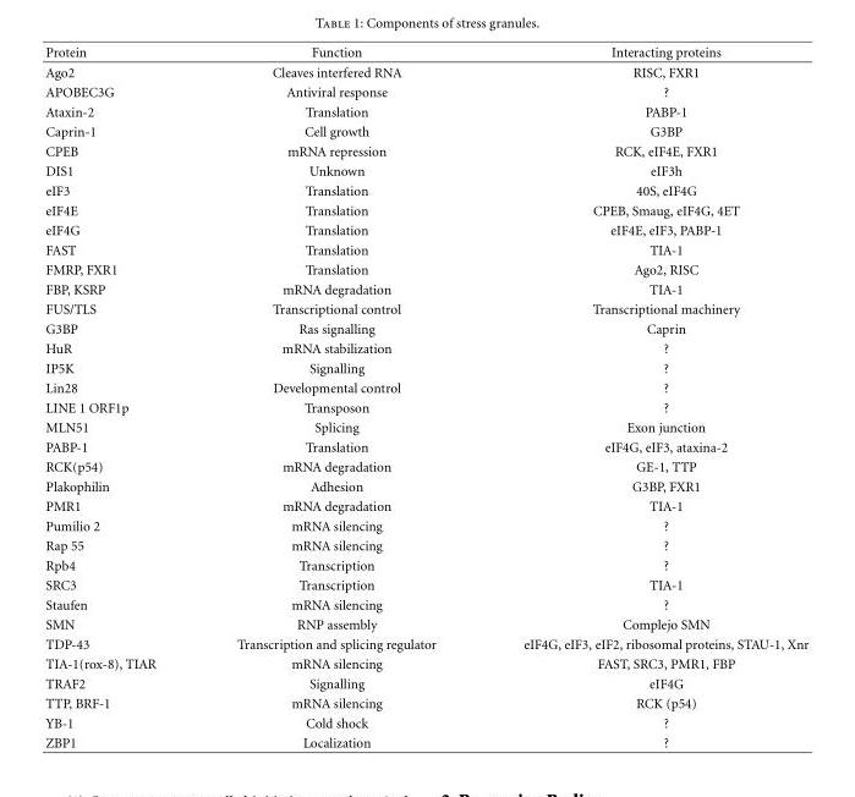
<table><thead><tr><td>Protein</td><td>Function</td><td>Interacting proteins</td></tr></thead><tbody><tr><td>Ago2</td><td>Cleaves interfered RNA</td><td>RISC, FXR1</td></tr><tr><td>APOBEC3G</td><td>Antiviral response</td><td>?</td></tr><tr><td>Ataxin-2</td><td>Translation</td><td>PABP-1</td></tr><tr><td>Caprin-1</td><td>Cell growth</td><td>G3BP</td></tr><tr><td>CPEB</td><td>mRNA repression</td><td>RCK, eIF4E, FXR1</td></tr><tr><td>DIS1</td><td>Unknown</td><td>eIF3h</td></tr><tr><td>eIF3</td><td>Translation</td><td>40S, eIF4G</td></tr><tr><td>eIF4E</td><td>Translation</td><td>CPEB, Smaug, eIF4G, 4ET</td></tr><tr><td>eIF4G</td><td>Translation</td><td>eIF4E, eIF3, PABP-1</td></tr><tr><td>FAST</td><td>Translation</td><td>TIA-1</td></tr><tr><td>FMRP, FXR1</td><td>Translation</td><td>Ago2, RISC</td></tr><tr><td>FBP, KSRP</td><td>mRNA degradation</td><td>TIA-1</td></tr><tr><td>FUS/TLS</td><td>Transcriptional control</td><td>Transcriptional machinery</td></tr><tr><td>G3BP</td><td>Ras signalling</td><td>Caprin</td></tr><tr><td>HuR</td><td>mRNA stabilization</td><td>?</td></tr><tr><td>IP5K</td><td>Signalling</td><td>?</td></tr><tr><td>Lin28</td><td>Developmental control</td><td>?</td></tr><tr><td>LINE 1 ORF1p</td><td>Transposon</td><td>?</td></tr><tr><td>MLN51</td><td>Splicing</td><td>Exon junction</td></tr><tr><td>PABP-1</td><td>Translation</td><td>eIF4G, eIF3, ataxina-2</td></tr><tr><td>RCK(p54)</td><td>mRNA degradation</td><td>GE-1, TTP</td></tr><tr><td>Plakophilin</td><td>Adhesion</td><td>G3BP, FXR1</td></tr><tr><td>PMR1</td><td>mRNA degradation</td><td>TIA-1</td></tr><tr><td>Pumilio 2</td><td>mRNA silencing</td><td>?</td></tr><tr><td>Rap 55</td><td>mRNA silencing</td><td>?</td></tr><tr><td>Rpb4</td><td>Transcription</td><td>?</td></tr><tr><td>SRC3</td><td>Transcription</td><td>TIA-1</td></tr><tr><td>Staufen</td><td>mRNA silencing</td><td>?</td></tr><tr><td>SMN</td><td>RNP assembly</td><td>Complejo SMN</td></tr><tr><td>TDP-43</td><td>Transcription and splicing regulator</td><td>eIF4G, eIF3, eIF2, ribosomal proteins, STAU-1, Xnr</td></tr><tr><td>TIA-1(rox-8), TIAR</td><td>mRNA silencing</td><td>FAST, SRC3, PMR1, FBP</td></tr><tr><td>TRAF2</td><td>Signalling</td><td>eIF4G</td></tr><tr><td>TTP, BRF-1</td><td>mRNA silencing</td><td>RCK (p54)</td></tr><tr><td>YB-1</td><td>Cold shock</td><td>?</td></tr><tr><td>ZBP1</td><td>Localization</td><td>?</td></tr></tbody></table>